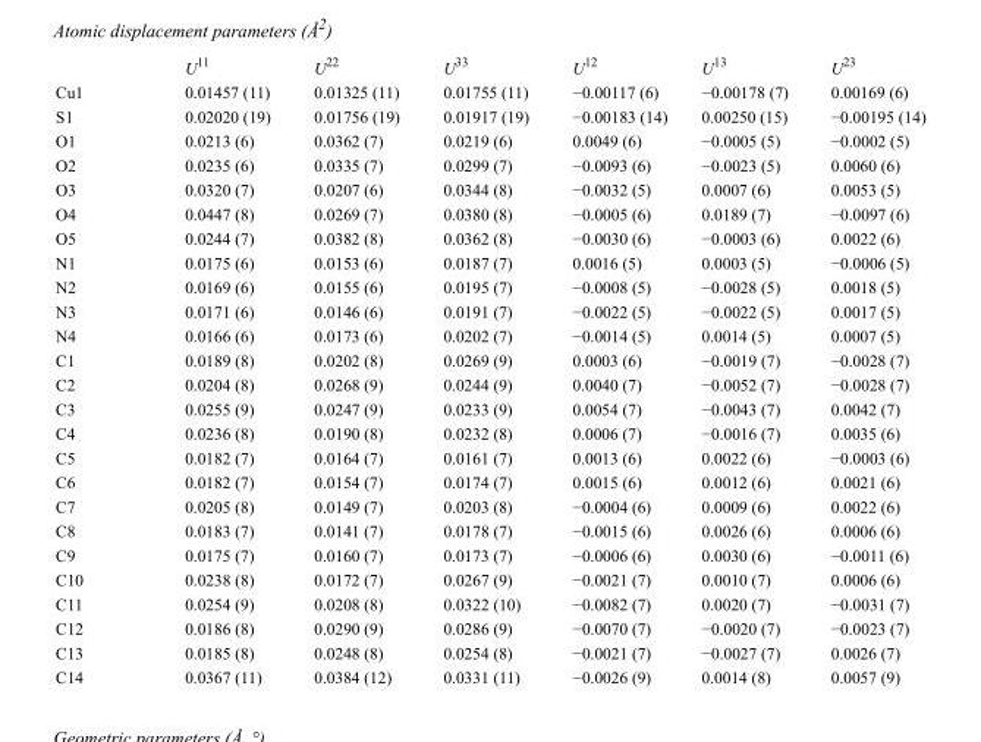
<table><thead><tr><td></td><td>U<sup>11</sup></td><td>U<sup>22</sup></td><td>U<sup>33</sup></td><td>U<sup>12</sup></td><td>U<sup>13</sup></td><td>U<sup>23</sup></td></tr></thead><tbody><tr><td>Cu1</td><td>0.01457 (11)</td><td>0.01325 (11)</td><td>0.01755 (11)</td><td>−0.00117 (6)</td><td>−0.00178 (7)</td><td>0.00169 (6)</td></tr><tr><td>S1</td><td>0.02020 (19)</td><td>0.01756 (19)</td><td>0.01917 (19)</td><td>−0.00183 (14)</td><td>0.00250 (15)</td><td>−0.00195 (14)</td></tr><tr><td>O1</td><td>0.0213 (6)</td><td>0.0362 (7)</td><td>0.0219 (6)</td><td>0.0049 (6)</td><td>−0.0005 (5)</td><td>−0.0002 (5)</td></tr><tr><td>O2</td><td>0.0235 (6)</td><td>0.0335 (7)</td><td>0.0299 (7)</td><td>−0.0093 (6)</td><td>−0.0023 (5)</td><td>0.0060 (6)</td></tr><tr><td>O3</td><td>0.0320 (7)</td><td>0.0207 (6)</td><td>0.0344 (8)</td><td>−0.0032 (5)</td><td>0.0007 (6)</td><td>0.0053 (5)</td></tr><tr><td>O4</td><td>0.0447 (8)</td><td>0.0269 (7)</td><td>0.0380 (8)</td><td>−0.0005 (6)</td><td>0.0189 (7)</td><td>−0.0097 (6)</td></tr><tr><td>O5</td><td>0.0244 (7)</td><td>0.0382 (8)</td><td>0.0362 (8)</td><td>−0.0030 (6)</td><td>−0.0003 (6)</td><td>0.0022 (6)</td></tr><tr><td>N1</td><td>0.0175 (6)</td><td>0.0153 (6)</td><td>0.0187 (7)</td><td>0.0016 (5)</td><td>0.0003 (5)</td><td>−0.0006 (5)</td></tr><tr><td>N2</td><td>0.0169 (6)</td><td>0.0155 (6)</td><td>0.0195 (7)</td><td>−0.0008 (5)</td><td>−0.0028 (5)</td><td>0.0018 (5)</td></tr><tr><td>N3</td><td>0.0171 (6)</td><td>0.0146 (6)</td><td>0.0191 (7)</td><td>−0.0022 (5)</td><td>−0.0022 (5)</td><td>0.0017 (5)</td></tr><tr><td>N4</td><td>0.0166 (6)</td><td>0.0173 (6)</td><td>0.0202 (7)</td><td>−0.0014 (5)</td><td>0.0014 (5)</td><td>0.0007 (5)</td></tr><tr><td>C1</td><td>0.0189 (8)</td><td>0.0202 (8)</td><td>0.0269 (9)</td><td>0.0003 (6)</td><td>−0.0019 (7)</td><td>−0.0028 (7)</td></tr><tr><td>C2</td><td>0.0204 (8)</td><td>0.0268 (9)</td><td>0.0244 (9)</td><td>0.0040 (7)</td><td>−0.0052 (7)</td><td>−0.0028 (7)</td></tr><tr><td>C3</td><td>0.0255 (9)</td><td>0.0247 (9)</td><td>0.0233 (9)</td><td>0.0054 (7)</td><td>−0.0043 (7)</td><td>0.0042 (7)</td></tr><tr><td>C4</td><td>0.0236 (8)</td><td>0.0190 (8)</td><td>0.0232 (8)</td><td>0.0006 (7)</td><td>−0.0016 (7)</td><td>0.0035 (6)</td></tr><tr><td>C5</td><td>0.0182 (7)</td><td>0.0164 (7)</td><td>0.0161 (7)</td><td>0.0013 (6)</td><td>0.0022 (6)</td><td>−0.0003 (6)</td></tr><tr><td>C6</td><td>0.0182 (7)</td><td>0.0154 (7)</td><td>0.0174 (7)</td><td>0.0015 (6)</td><td>0.0012 (6)</td><td>0.0021 (6)</td></tr><tr><td>C7</td><td>0.0205 (8)</td><td>0.0149 (7)</td><td>0.0203 (8)</td><td>−0.0004 (6)</td><td>0.0009 (6)</td><td>0.0022 (6)</td></tr><tr><td>C8</td><td>0.0183 (7)</td><td>0.0141 (7)</td><td>0.0178 (7)</td><td>−0.0015 (6)</td><td>0.0026 (6)</td><td>0.0006 (6)</td></tr><tr><td>C9</td><td>0.0175 (7)</td><td>0.0160 (7)</td><td>0.0173 (7)</td><td>−0.0006 (6)</td><td>0.0030 (6)</td><td>−0.0011 (6)</td></tr><tr><td>C10</td><td>0.0238 (8)</td><td>0.0172 (7)</td><td>0.0267 (9)</td><td>−0.0021 (7)</td><td>0.0010 (7)</td><td>0.0006 (6)</td></tr><tr><td>C11</td><td>0.0254 (9)</td><td>0.0208 (8)</td><td>0.0322 (10)</td><td>−0.0082 (7)</td><td>0.0020 (7)</td><td>−0.0031 (7)</td></tr><tr><td>C12</td><td>0.0186 (8)</td><td>0.0290 (9)</td><td>0.0286 (9)</td><td>−0.0070 (7)</td><td>−0.0020 (7)</td><td>−0.0023 (7)</td></tr><tr><td>C13</td><td>0.0185 (8)</td><td>0.0248 (8)</td><td>0.0254 (8)</td><td>−0.0021 (7)</td><td>−0.0027 (7)</td><td>0.0026 (7)</td></tr><tr><td>C14</td><td>0.0367 (11)</td><td>0.0384 (12)</td><td>0.0331 (11)</td><td>−0.0026 (9)</td><td>0.0014 (8)</td><td>0.0057 (9)</td></tr></tbody></table>